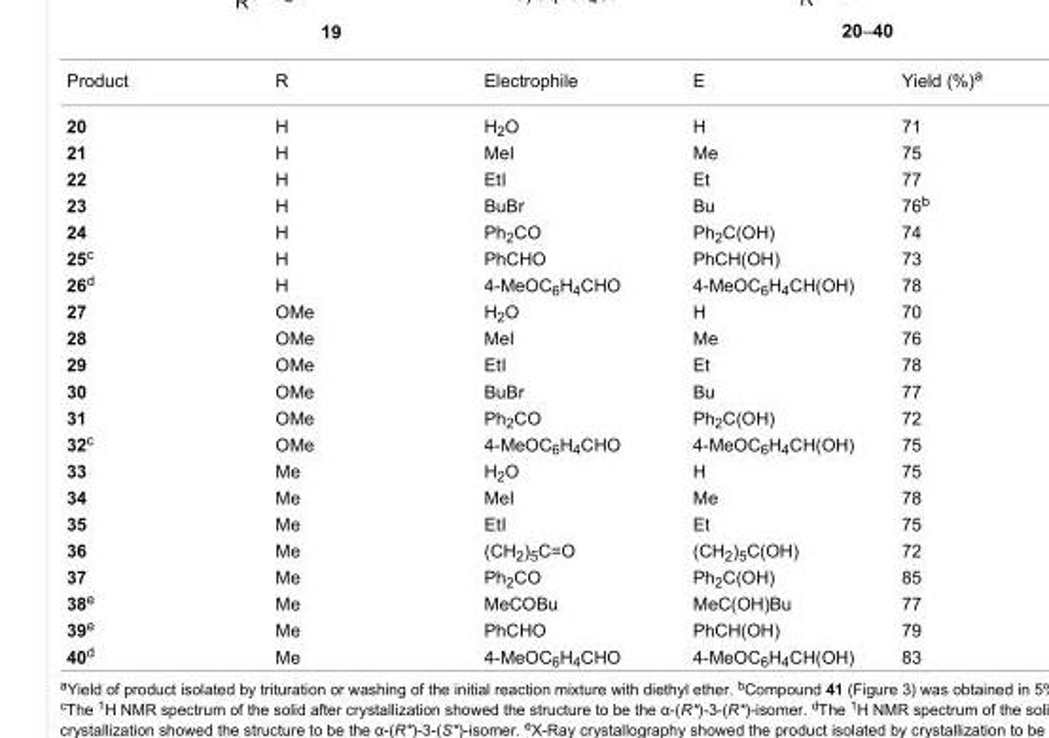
<table><tbody><tr><td>Product</td><td>R</td><td>Electrophile</td><td>E</td><td>Yield (%)<sup>a</sup></td></tr><tr><td>20</td><td>H</td><td>H<sub>2</sub>O</td><td>H</td><td>71</td></tr><tr><td>21</td><td>H</td><td>MeI</td><td>Me</td><td>75</td></tr><tr><td>22</td><td>H</td><td>EtI</td><td>Et</td><td>77</td></tr><tr><td>23</td><td>H</td><td>BuBr</td><td>Bu</td><td>76<sup>b</sup></td></tr><tr><td>24</td><td>H</td><td>Ph<sub>2</sub>CO</td><td>Ph<sub>2</sub>C(OH)</td><td>74</td></tr><tr><td>25<sup>c</sup></td><td>H</td><td>PhCHO</td><td>PhCH(OH)</td><td>73</td></tr><tr><td>26<sup>d</sup></td><td>H</td><td>4-MeOC<sub>6</sub>H<sub>4</sub>CHO</td><td>4-MeOC<sub>6</sub>H<sub>4</sub>CH(OH)</td><td>78</td></tr><tr><td>27</td><td>OMe</td><td>H<sub>2</sub>O</td><td>H</td><td>70</td></tr><tr><td>28</td><td>OMe</td><td>MeI</td><td>Me</td><td>76</td></tr><tr><td>29</td><td>OMe</td><td>EtI</td><td>Et</td><td>78</td></tr><tr><td>30</td><td>OMe</td><td>BuBr</td><td>Bu</td><td>77</td></tr><tr><td>31</td><td>OMe</td><td>Ph<sub>2</sub>CO</td><td>Ph<sub>2</sub>C(OH)</td><td>72</td></tr><tr><td>32<sup>c</sup></td><td>OMe</td><td>4-MeOC<sub>6</sub>H<sub>4</sub>CHO</td><td>4-MeOC<sub>6</sub>H<sub>4</sub>CH(OH)</td><td>75</td></tr><tr><td>33</td><td>Me</td><td>H<sub>2</sub>O</td><td>H</td><td>75</td></tr><tr><td>34</td><td>Me</td><td>MeI</td><td>Me</td><td>78</td></tr><tr><td>35</td><td>Me</td><td>EtI</td><td>Et</td><td>75</td></tr><tr><td>36</td><td>Me</td><td>(CH<sub>2</sub>)<sub>5</sub>C=O</td><td>(CH<sub>2</sub>)<sub>5</sub>C(OH)</td><td>72</td></tr><tr><td>37</td><td>Me</td><td>Ph<sub>2</sub>CO</td><td>Ph<sub>2</sub>C(OH)</td><td>85</td></tr><tr><td>38<sup>e</sup></td><td>Me</td><td>MeCOBu</td><td>MeC(OH)Bu</td><td>77</td></tr><tr><td>39<sup>e</sup></td><td>Me</td><td>PhCHO</td><td>PhCH(OH)</td><td>79</td></tr><tr><td>40<sup>d</sup></td><td>Me</td><td>4-MeOC<sub>6</sub>H<sub>4</sub>CHO</td><td>4-MeOC<sub>6</sub>H<sub>4</sub>CH(OH)</td><td>83</td></tr></tbody></table>